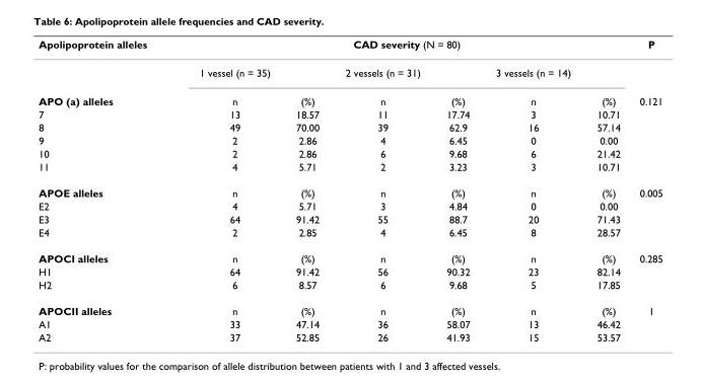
<table><thead><tr><td rowspan="2">Apolipoprotein alleles</td><td colspan="6">CAD severity (N = 80)</td><td rowspan="2">P</td></tr><tr><td>1 vessel (n = 35)</td><td></td><td>2 vessels (n = 31)</td><td></td><td>3 vessels (n = 14)</td><td></td></tr></thead><tbody><tr><td>APO (a) alleles</td><td>n</td><td>(%)</td><td>n</td><td>(%)</td><td>n</td><td>(%)</td><td>0.121</td></tr><tr><td>7</td><td>13</td><td>18.57</td><td>11</td><td>17.74</td><td>3</td><td>10.71</td><td></td></tr><tr><td>8</td><td>49</td><td>70.00</td><td>39</td><td>62.9</td><td>16</td><td>57.14</td><td></td></tr><tr><td>9</td><td>2</td><td>2.86</td><td>4</td><td>6.45</td><td>0</td><td>0.00</td><td></td></tr><tr><td>10</td><td>2</td><td>2.86</td><td>6</td><td>9.68</td><td>6</td><td>21.42</td><td></td></tr><tr><td>11</td><td>4</td><td>5.71</td><td>2</td><td>3.23</td><td>3</td><td>10.71</td><td></td></tr><tr><td>APOE alleles</td><td>n</td><td>(%)</td><td>n</td><td>(%)</td><td>n</td><td>(%)</td><td>0.005</td></tr><tr><td>E2</td><td>4</td><td>5.71</td><td>3</td><td>4.84</td><td>0</td><td>0.00</td><td></td></tr><tr><td>E3</td><td>64</td><td>91.42</td><td>55</td><td>88.7</td><td>20</td><td>71.43</td><td></td></tr><tr><td>E4</td><td>2</td><td>2.85</td><td>4</td><td>6.45</td><td>8</td><td>28.57</td><td></td></tr><tr><td>APOCI alleles</td><td>n</td><td>(%)</td><td>n</td><td>(%)</td><td>n</td><td>(%)</td><td>0.285</td></tr><tr><td>H1</td><td>64</td><td>91.42</td><td>56</td><td>90.32</td><td>23</td><td>82.14</td><td></td></tr><tr><td>H2</td><td>6</td><td>8.57</td><td>6</td><td>9.68</td><td>5</td><td>17.85</td><td></td></tr><tr><td>APOCII alleles</td><td>n</td><td>(%)</td><td>n</td><td>(%)</td><td>n</td><td>(%)</td><td>1</td></tr><tr><td>A1</td><td>33</td><td>47.14</td><td>36</td><td>58.07</td><td>13</td><td>46.42</td><td></td></tr><tr><td>A2</td><td>37</td><td>52.85</td><td>26</td><td>41.93</td><td>15</td><td>53.57</td><td></td></tr></tbody></table>